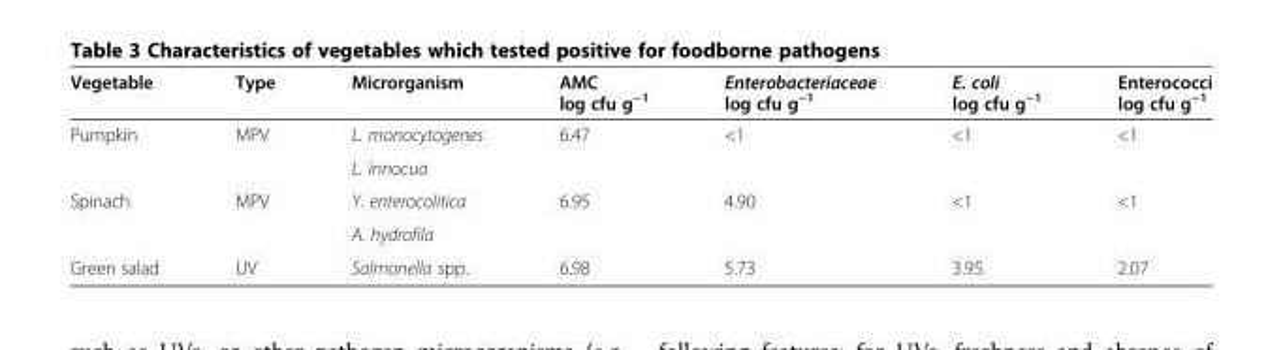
<table><thead><tr><td>Vegetable</td><td>Type</td><td>Microrganism</td><td>AMC log cfu g<sup>−1</sup></td><td>Enterobacteriaceae log cfu g<sup>−1</sup></td><td>E. coli log cfu g<sup>−1</sup></td><td>Enterococci log cfu g<sup>−1</sup></td></tr></thead><tbody><tr><td rowspan="2">Pumpkin</td><td rowspan="2">MPV</td><td>L. monocytogenes</td><td rowspan="2">6.47</td><td rowspan="2">&lt;1</td><td rowspan="2">&lt;1</td><td rowspan="2">&lt;1</td></tr><tr><td>L. innocua</td></tr><tr><td rowspan="2">Spinach</td><td rowspan="2">MPV</td><td>Y. enterocolitica</td><td rowspan="2">6.95</td><td rowspan="2">4.90</td><td rowspan="2">&lt;1</td><td rowspan="2">&lt;1</td></tr><tr><td>A. hydrofila</td></tr><tr><td>Green salad</td><td>UV</td><td>Salmonella spp.</td><td>6.98</td><td>5.73</td><td>3.95</td><td>2.07</td></tr></tbody></table>